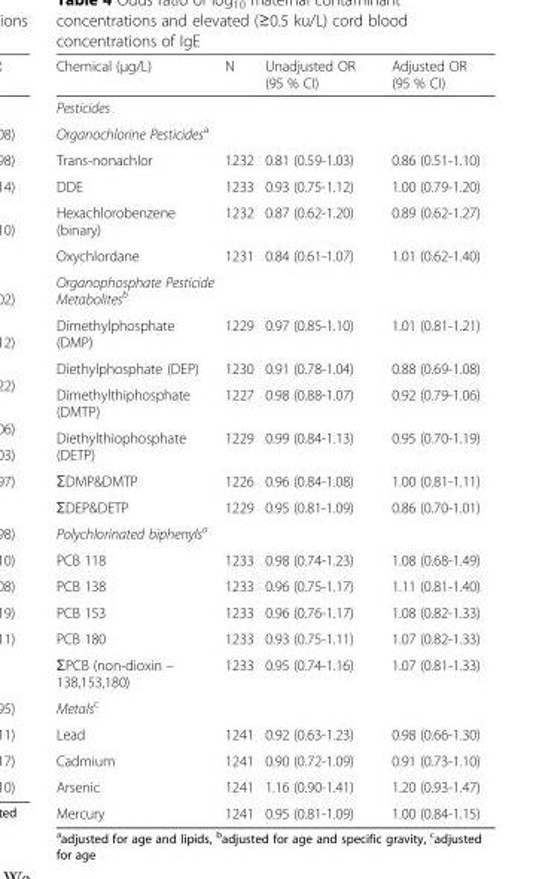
<table><thead><tr><td>Chemical (μg/L)</td><td>N</td><td>Unadjusted OR (95 % CI)</td><td>Adjusted OR (95 % CI)</td></tr></thead><tbody><tr><td colspan="4">Pesticides</td></tr><tr><td colspan="4">Organochlorine Pesticides<sup>a</sup></td></tr><tr><td>Trans-nonachlor</td><td>1232</td><td>0.81 (0.59-1.03)</td><td>0.86 (0.51-1.10)</td></tr><tr><td>DDE</td><td>1233</td><td>0.93 (0.75-1.12)</td><td>1.00 (0.79-1.20)</td></tr><tr><td>Hexachlorobenzene (binary)</td><td>1232</td><td>0.87 (0.62-1.20)</td><td>0.89 (0.62-1.27)</td></tr><tr><td>Oxychlordane</td><td>1231</td><td>0.84 (0.61-1.07)</td><td>1.01 (0.62-1.40)</td></tr><tr><td colspan="4">Organophosphate Pesticide Metabolites<sup>b</sup></td></tr><tr><td>Dimethylphosphate (DMP)</td><td>1229</td><td>0.97 (0.85-1.10)</td><td>1.01 (0.81-1.21)</td></tr><tr><td>Diethylphosphate (DEP)</td><td>1230</td><td>0.91 (0.78-1.04)</td><td>0.88 (0.69-1.08)</td></tr><tr><td>Dimethylthiphosphate (DMTP)</td><td>1227</td><td>0.98 (0.88-1.07)</td><td>0.92 (0.79-1.06)</td></tr><tr><td>Diethylthiophosphate (DETP)</td><td>1229</td><td>0.99 (0.84-1.13)</td><td>0.95 (0.70-1.19)</td></tr><tr><td>ƩDMP&amp;DMTP</td><td>1226</td><td>0.96 (0.84-1.08)</td><td>1.00 (0.81-1.11)</td></tr><tr><td>ƩDEP&amp;DETP</td><td>1229</td><td>0.95 (0.81-1.09)</td><td>0.86 (0.70-1.01)</td></tr><tr><td colspan="4">Polychlorinated biphenyls<sup>a</sup></td></tr><tr><td>PCB 118</td><td>1233</td><td>0.98 (0.74-1.23)</td><td>1.08 (0.68-1.49)</td></tr><tr><td>PCB 138</td><td>1233</td><td>0.96 (0.75-1.17)</td><td>1.11 (0.81-1.40)</td></tr><tr><td>PCB 153</td><td>1233</td><td>0.96 (0.76-1.17)</td><td>1.08 (0.82-1.33)</td></tr><tr><td>PCB 180</td><td>1233</td><td>0.93 (0.75-1.11)</td><td>1.07 (0.82-1.33)</td></tr><tr><td>ƩPCB (non-dioxin – 138,153,180)</td><td>1233</td><td>0.95 (0.74-1.16)</td><td>1.07 (0.81-1.33)</td></tr><tr><td colspan="4">Metals<sup>c</sup></td></tr><tr><td>Lead</td><td>1241</td><td>0.92 (0.63-1.23)</td><td>0.98 (0.66-1.30)</td></tr><tr><td>Cadmium</td><td>1241</td><td>0.90 (0.72-1.09)</td><td>0.91 (0.73-1.10)</td></tr><tr><td>Arsenic</td><td>1241</td><td>1.16 (0.90-1.41)</td><td>1.20 (0.93-1.47)</td></tr><tr><td>Mercury</td><td>1241</td><td>0.95 (0.81-1.09)</td><td>1.00 (0.84-1.15)</td></tr></tbody></table>